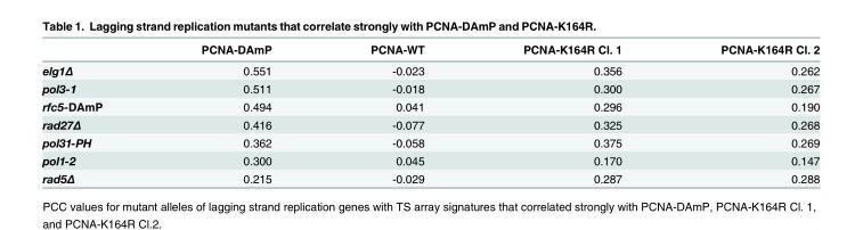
<table><thead><tr><td></td><td>PCNA-DAmP</td><td>PCNA-WT</td><td>PCNA-K164R Cl. 1</td><td>PCNA-K164R Cl. 2</td></tr></thead><tbody><tr><td>elg1Δ</td><td>0.551</td><td>-0.023</td><td>0.356</td><td>0.262</td></tr><tr><td>pol3-1</td><td>0.511</td><td>-0.018</td><td>0.300</td><td>0.267</td></tr><tr><td>rfc5-DAmP</td><td>0.494</td><td>0.041</td><td>0.296</td><td>0.190</td></tr><tr><td>rad27Δ</td><td>0.416</td><td>-0.077</td><td>0.325</td><td>0.268</td></tr><tr><td>pol31-PH</td><td>0.362</td><td>-0.058</td><td>0.375</td><td>0.269</td></tr><tr><td>pol1-2</td><td>0.300</td><td>0.045</td><td>0.170</td><td>0.147</td></tr><tr><td>rad5Δ</td><td>0.215</td><td>-0.029</td><td>0.287</td><td>0.288</td></tr></tbody></table>